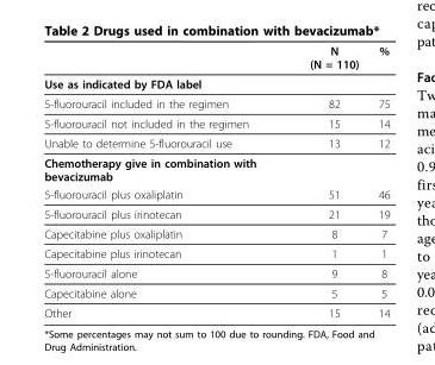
<table><thead><tr><td></td><td>N (N = 110)</td><td>%</td></tr></thead><tbody><tr><td colspan="3">Use as indicated by FDA label</td></tr><tr><td>5-fluorouracil included in the regimen</td><td>82</td><td>75</td></tr><tr><td>5-fluorouracil not included in the regimen</td><td>15</td><td>14</td></tr><tr><td>Unable to determine 5-fluorouracil use</td><td>13</td><td>12</td></tr><tr><td colspan="3">Chemotherapy give in combination with bevacizumab</td></tr><tr><td>5-fluorouracil plus oxaliplatin</td><td>51</td><td>46</td></tr><tr><td>5-fluorouracil plus irinotecan</td><td>21</td><td>19</td></tr><tr><td>Capecitabine plus oxaliplatin</td><td>8</td><td>7</td></tr><tr><td>Capecitabine plus irinotecan</td><td>1</td><td>1</td></tr><tr><td>5-fluorouracil alone</td><td>9</td><td>8</td></tr><tr><td>Capecitabine alone</td><td>5</td><td>5</td></tr><tr><td>Other</td><td>15</td><td>14</td></tr></tbody></table>